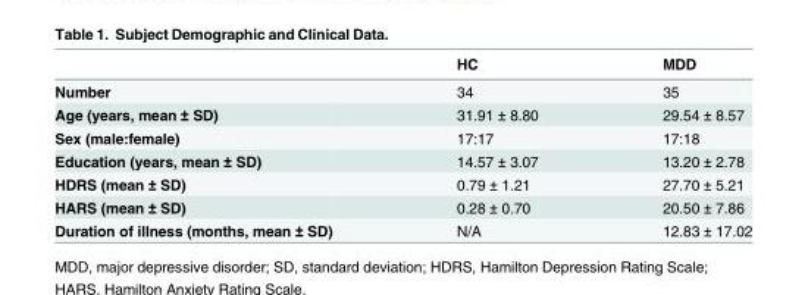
<table><thead><tr><td></td><td>HC</td><td>MDD</td></tr></thead><tbody><tr><td>Number</td><td>34</td><td>35</td></tr><tr><td>Age (years, mean ± SD)</td><td>31.91 ± 8.80</td><td>29.54 ± 8.57</td></tr><tr><td>Sex (male:female)</td><td>17:17</td><td>17:18</td></tr><tr><td>Education (years, mean ± SD)</td><td>14.57 ± 3.07</td><td>13.20 ± 2.78</td></tr><tr><td>HDRS (mean ± SD)</td><td>0.79 ± 1.21</td><td>27.70 ± 5.21</td></tr><tr><td>HARS (mean ± SD)</td><td>0.28 ± 0.70</td><td>20.50 ± 7.86</td></tr><tr><td>Duration of illness (months, mean ± SD)</td><td>N/A</td><td>12.83 ± 17.02</td></tr></tbody></table>